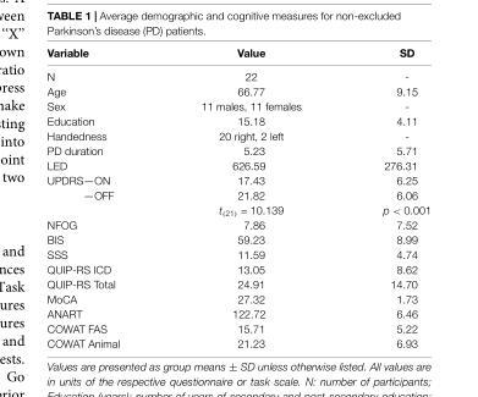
<table><thead><tr><td>Variable</td><td>Value</td><td>SD</td></tr></thead><tbody><tr><td>N</td><td>22</td><td>-</td></tr><tr><td>Age</td><td>66.77</td><td>9.15</td></tr><tr><td>Sex</td><td>11 males, 11 females</td><td>-</td></tr><tr><td>Education</td><td>15.18</td><td>4.11</td></tr><tr><td>Handedness</td><td>20 right, 2 left</td><td>-</td></tr><tr><td>PD duration</td><td>5.23</td><td>5.71</td></tr><tr><td>LED</td><td>626.59</td><td>276.31</td></tr><tr><td>UPDRS—ON</td><td>17.43</td><td>6.25</td></tr><tr><td rowspan="2">—OFF</td><td>21.82</td><td>6.06</td></tr><tr><td>t<sub>(21)</sub> = 10.139</td><td>p &lt; 0.001</td></tr><tr><td>NFOG</td><td>7.86</td><td>7.52</td></tr><tr><td>BIS</td><td>59.23</td><td>8.99</td></tr><tr><td>SSS</td><td>11.59</td><td>4.74</td></tr><tr><td>QUIP-RS ICD</td><td>13.05</td><td>8.62</td></tr><tr><td>QUIP-RS Total</td><td>24.91</td><td>14.70</td></tr><tr><td>MoCA</td><td>27.32</td><td>1.73</td></tr><tr><td>ANART</td><td>122.72</td><td>6.46</td></tr><tr><td>COWAT FAS</td><td>15.71</td><td>5.22</td></tr><tr><td>COWAT Animal</td><td>21.23</td><td>6.93</td></tr></tbody></table>